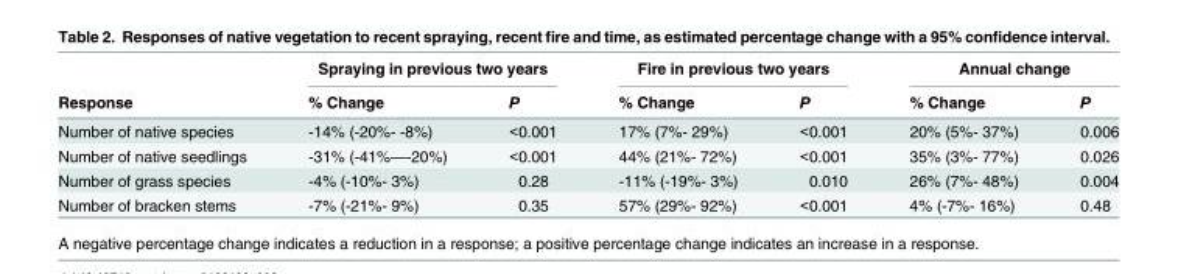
<table><thead><tr><td rowspan="2">Response</td><td colspan="2">Spraying in previous two years</td><td colspan="2">Fire in previous two years</td><td colspan="2">Annual change</td></tr><tr><td>% Change</td><td>P</td><td>% Change</td><td>P</td><td>% Change</td><td>P</td></tr></thead><tbody><tr><td>Number of native species</td><td>-14% (-20%- -8%)</td><td>&lt;0.001</td><td>17% (7%- 29%)</td><td>&lt;0.001</td><td>20% (5%- 37%)</td><td>0.006</td></tr><tr><td>Number of native seedlings</td><td>-31% (-41%—-20%)</td><td>&lt;0.001</td><td>44% (21%- 72%)</td><td>&lt;0.001</td><td>35% (3%- 77%)</td><td>0.026</td></tr><tr><td>Number of grass species</td><td>-4% (-10%- 3%)</td><td>0.28</td><td>-11% (-19%- 3%)</td><td>0.010</td><td>26% (7%- 48%)</td><td>0.004</td></tr><tr><td>Number of bracken stems</td><td>-7% (-21%- 9%)</td><td>0.35</td><td>57% (29%- 92%)</td><td>&lt;0.001</td><td>4% (-7%- 16%)</td><td>0.48</td></tr></tbody></table>